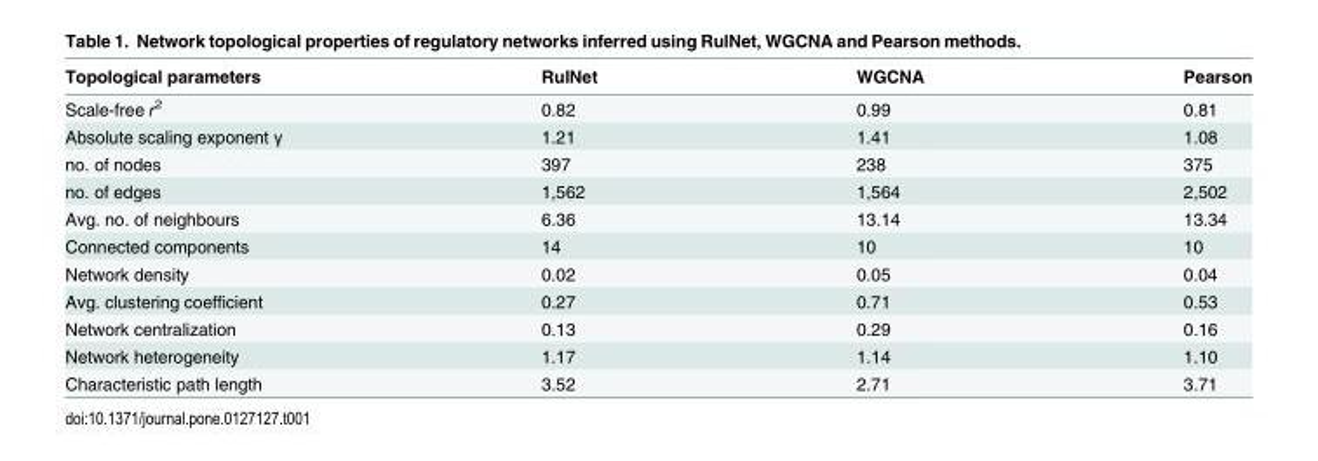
<table><thead><tr><td>Topological parameters</td><td>RulNet</td><td>WGCNA</td><td>Pearson</td></tr></thead><tbody><tr><td>Scale-free r<sup>2</sup></td><td>0.82</td><td>0.99</td><td>0.81</td></tr><tr><td>Absolute scaling exponent γ</td><td>1.21</td><td>1.41</td><td>1.08</td></tr><tr><td>no. of nodes</td><td>397</td><td>238</td><td>375</td></tr><tr><td>no. of edges</td><td>1,562</td><td>1,564</td><td>2,502</td></tr><tr><td>Avg. no. of neighbours</td><td>6.36</td><td>13.14</td><td>13.34</td></tr><tr><td>Connected components</td><td>14</td><td>10</td><td>10</td></tr><tr><td>Network density</td><td>0.02</td><td>0.05</td><td>0.04</td></tr><tr><td>Avg. clustering coefficient</td><td>0.27</td><td>0.71</td><td>0.53</td></tr><tr><td>Network centralization</td><td>0.13</td><td>0.29</td><td>0.16</td></tr><tr><td>Network heterogeneity</td><td>1.17</td><td>1.14</td><td>1.10</td></tr><tr><td>Characteristic path length</td><td>3.52</td><td>2.71</td><td>3.71</td></tr></tbody></table>